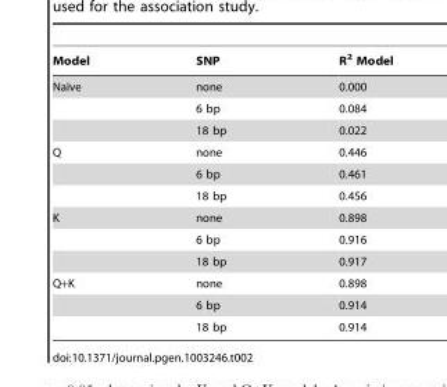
<table><thead><tr><td>Model</td><td>SNP</td><td>R<sup>2</sup> Model</td></tr></thead><tbody><tr><td rowspan="3">Naı¨ve</td><td>none</td><td>0.000</td></tr><tr><td>6 bp</td><td>0.084</td></tr><tr><td>18 bp</td><td>0.022</td></tr><tr><td rowspan="3">Q</td><td>none</td><td>0.446</td></tr><tr><td>6 bp</td><td>0.461</td></tr><tr><td>18 bp</td><td>0.456</td></tr><tr><td rowspan="3">K</td><td>none</td><td>0.898</td></tr><tr><td>6 bp</td><td>0.916</td></tr><tr><td>18 bp</td><td>0.917</td></tr><tr><td rowspan="3">Q+K</td><td>none</td><td>0.898</td></tr><tr><td>6 bp</td><td>0.914</td></tr><tr><td>18 bp</td><td>0.914</td></tr></tbody></table>